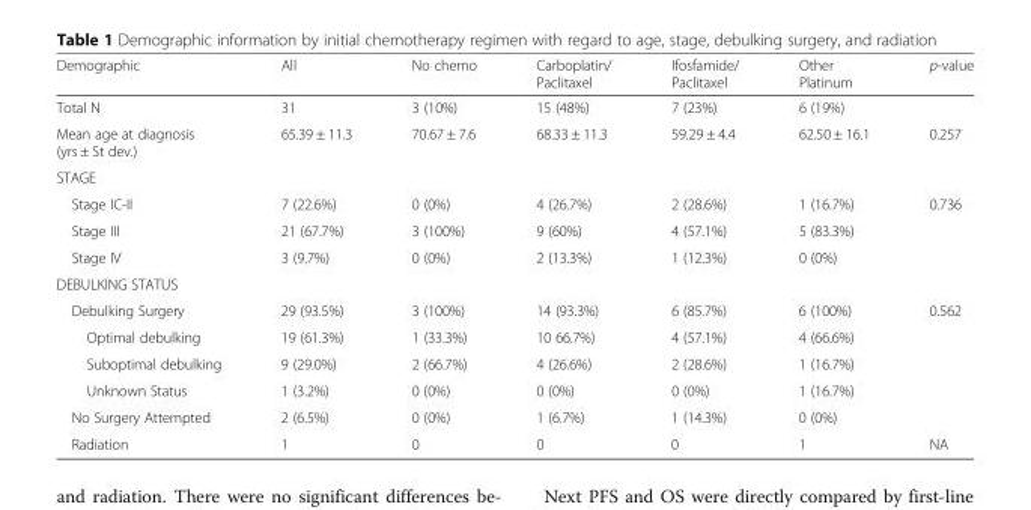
<table><thead><tr><td>Demographic</td><td>All</td><td>No chemo</td><td>Carboplatin/ Paclitaxel</td><td>Ifosfamide/ Paclitaxel</td><td>Other Platinum</td><td>p-value</td></tr></thead><tbody><tr><td>Total N</td><td>31</td><td>3 (10%)</td><td>15 (48%)</td><td>7 (23%)</td><td>6 (19%)</td><td></td></tr><tr><td>Mean age at diagnosis (yrs ± St dev.)</td><td>65.39 ± 11.3</td><td>70.67 ± 7.6</td><td>68.33 ± 11.3</td><td>59.29 ± 4.4</td><td>62.50 ± 16.1</td><td>0.257</td></tr><tr><td colspan="7">STAGE</td></tr><tr><td>Stage IC-II</td><td>7 (22.6%)</td><td>0 (0%)</td><td>4 (26.7%)</td><td>2 (28.6%)</td><td>1 (16.7%)</td><td>0.736</td></tr><tr><td>Stage III</td><td>21 (67.7%)</td><td>3 (100%)</td><td>9 (60%)</td><td>4 (57.1%)</td><td>5 (83.3%)</td><td></td></tr><tr><td>Stage IV</td><td>3 (9.7%)</td><td>0 (0%)</td><td>2 (13.3%)</td><td>1 (12.3%)</td><td>0 (0%)</td><td></td></tr><tr><td colspan="7">DEBULKING STATUS</td></tr><tr><td>Debulking Surgery</td><td>29 (93.5%)</td><td>3 (100%)</td><td>14 (93.3%)</td><td>6 (85.7%)</td><td>6 (100%)</td><td>0.562</td></tr><tr><td>Optimal debulking</td><td>19 (61.3%)</td><td>1 (33.3%)</td><td>10 66.7%)</td><td>4 (57.1%)</td><td>4 (66.6%)</td><td></td></tr><tr><td>Suboptimal debulking</td><td>9 (29.0%)</td><td>2 (66.7%)</td><td>4 (26.6%)</td><td>2 (28.6%)</td><td>1 (16.7%)</td><td></td></tr><tr><td>Unknown Status</td><td>1 (3.2%)</td><td>0 (0%)</td><td>0 (0%)</td><td>0 (0%)</td><td>1 (16.7%)</td><td></td></tr><tr><td>No Surgery Attempted</td><td>2 (6.5%)</td><td>0 (0%)</td><td>1 (6.7%)</td><td>1 (14.3%)</td><td>0 (0%)</td><td></td></tr><tr><td>Radiation</td><td>1</td><td>0</td><td>0</td><td>0</td><td>1</td><td>NA</td></tr></tbody></table>